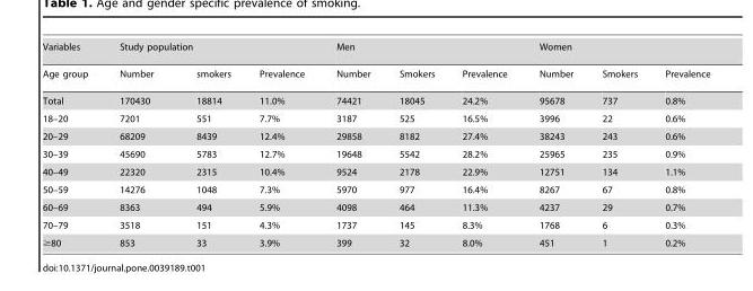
<table><tbody><tr><td>Variables</td><td colspan="3">Study population</td><td colspan="3">Men</td><td colspan="3">Women</td></tr><tr><td>Age group</td><td>Number</td><td>smokers</td><td>Prevalence</td><td>Number</td><td>Smokers</td><td>Prevalence</td><td>Number</td><td>Smokers</td><td>Prevalence</td></tr><tr><td>Total</td><td>170430</td><td>18814</td><td>11.0%</td><td>74421</td><td>18045</td><td>24.2%</td><td>95678</td><td>737</td><td>0.8%</td></tr><tr><td>18–20</td><td>7201</td><td>551</td><td>7.7%</td><td>3187</td><td>525</td><td>16.5%</td><td>3996</td><td>22</td><td>0.6%</td></tr><tr><td>20–29</td><td>68209</td><td>8439</td><td>12.4%</td><td>29858</td><td>8182</td><td>27.4%</td><td>38243</td><td>243</td><td>0.6%</td></tr><tr><td>30–39</td><td>45690</td><td>5783</td><td>12.7%</td><td>19648</td><td>5542</td><td>28.2%</td><td>25965</td><td>235</td><td>0.9%</td></tr><tr><td>40–49</td><td>22320</td><td>2315</td><td>10.4%</td><td>9524</td><td>2178</td><td>22.9%</td><td>12751</td><td>134</td><td>1.1%</td></tr><tr><td>50–59</td><td>14276</td><td>1048</td><td>7.3%</td><td>5970</td><td>977</td><td>16.4%</td><td>8267</td><td>67</td><td>0.8%</td></tr><tr><td>60–69</td><td>8363</td><td>494</td><td>5.9%</td><td>4098</td><td>464</td><td>11.3%</td><td>4237</td><td>29</td><td>0.7%</td></tr><tr><td>70–79</td><td>3518</td><td>151</td><td>4.3%</td><td>1737</td><td>145</td><td>8.3%</td><td>1768</td><td>6</td><td>0.3%</td></tr><tr><td>≥80</td><td>853</td><td>33</td><td>3.9%</td><td>399</td><td>32</td><td>8.0%</td><td>451</td><td>1</td><td>0.2%</td></tr></tbody></table>